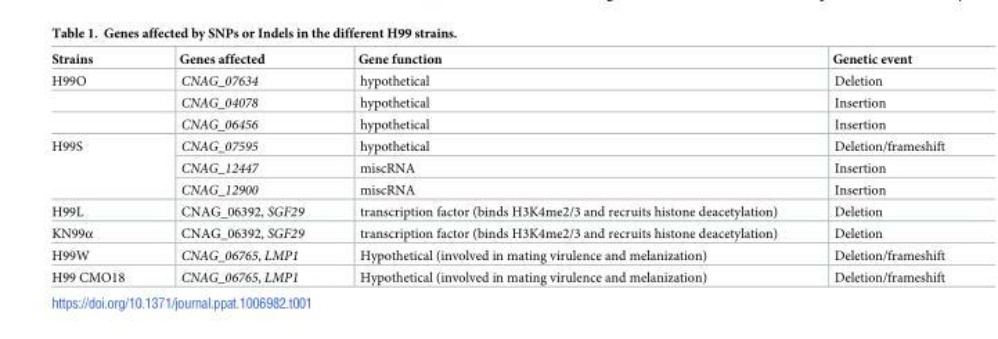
<table><thead><tr><td>Strains</td><td>Genes affected</td><td>Gene function</td><td>Genetic event</td></tr></thead><tbody><tr><td rowspan="3">H99O</td><td>CNAG_07634</td><td>hypothetical</td><td>Deletion</td></tr><tr><td>CNAG_04078</td><td>hypothetical</td><td>Insertion</td></tr><tr><td>CNAG_06456</td><td>hypothetical</td><td>Insertion</td></tr><tr><td rowspan="3">H99S</td><td>CNAG_07595</td><td>hypothetical</td><td>Deletion/frameshift</td></tr><tr><td>CNAG_12447</td><td>miscRNA</td><td>Insertion</td></tr><tr><td>CNAG_12900</td><td>miscRNA</td><td>Insertion</td></tr><tr><td>H99L</td><td>CNAG_06392, SGF29</td><td>transcription factor (binds H3K4me2/3 and recruits histone deacetylation)</td><td>Deletion</td></tr><tr><td>KN99α</td><td>CNAG_06392, SGF29</td><td>transcription factor (binds H3K4me2/3 and recruits histone deacetylation)</td><td>Deletion</td></tr><tr><td>H99W</td><td>CNAG_06765, LMP1</td><td>Hypothetical (involved in mating virulence and melanization)</td><td>Deletion/frameshift</td></tr><tr><td>H99 CMO18</td><td>CNAG_06765, LMP1</td><td>Hypothetical (involved in mating virulence and melanization)</td><td>Deletion/frameshift</td></tr></tbody></table>